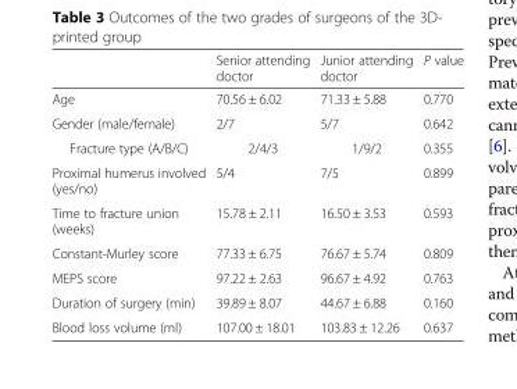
<table><thead><tr><td></td><td>Senior attending doctor</td><td>Junior attending doctor</td><td>P value</td></tr></thead><tbody><tr><td>Age</td><td>70.56 ± 6.02</td><td>71.33 ± 5.88</td><td>0.770</td></tr><tr><td>Gender (male/female)</td><td>2/7</td><td>5/7</td><td>0.642</td></tr><tr><td>Fracture type (A/B/C)</td><td>2/4/3</td><td>1/9/2</td><td>0.355</td></tr><tr><td>Proximal humerus involved (yes/no)</td><td>5/4</td><td>7/5</td><td>0.899</td></tr><tr><td>Time to fracture union (weeks)</td><td>15.78 ± 2.11</td><td>16.50 ± 3.53</td><td>0.593</td></tr><tr><td>Constant-Murley score</td><td>77.33 ± 6.75</td><td>76.67 ± 5.74</td><td>0.809</td></tr><tr><td>MEPS score</td><td>97.22 ± 2.63</td><td>96.67 ± 4.92</td><td>0.763</td></tr><tr><td>Duration of surgery (min)</td><td>39.89 ± 8.07</td><td>44.67 ± 6.88</td><td>0.160</td></tr><tr><td>Blood loss volume (ml)</td><td>107.00 ± 18.01</td><td>103.83 ± 12.26</td><td>0.637</td></tr></tbody></table>